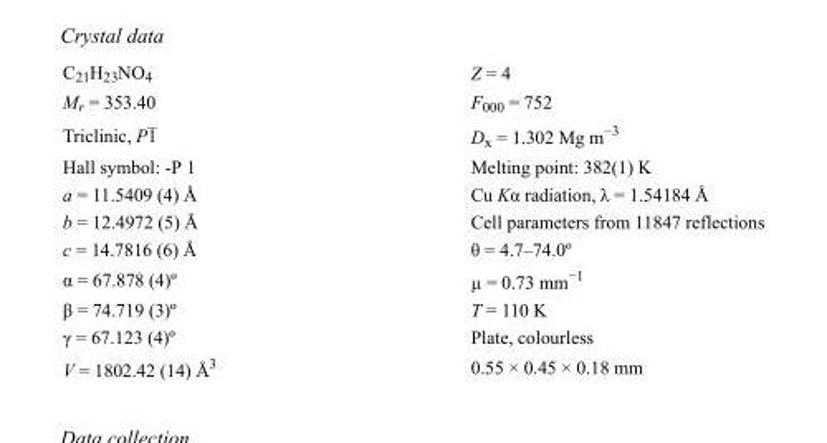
<table><tbody><tr><td>C<sub>21</sub>H<sub>23</sub>NO<sub>4</sub></td><td>Z = 4</td></tr><tr><td>M<sub>r</sub> = 353.40</td><td>F000 = 752</td></tr><tr><td>Triclinic, P1</td><td>D<sub>x</sub> = 1.302 Mg m<sup>−3</sup></td></tr><tr><td>Hall symbol: -P 1</td><td>Melting point: 382(1) K</td></tr><tr><td>a = 11.5409 (4) Å</td><td>Cu Kα radiation, λ = 1.54184 Å</td></tr><tr><td>b = 12.4972 (5) Å</td><td>Cell parameters from 11847 reflections</td></tr><tr><td>c = 14.7816 (6) Å</td><td>θ = 4.7–74.0º</td></tr><tr><td>α = 67.878 (4)º</td><td>µ = 0.73 mm<sup>−1</sup></td></tr><tr><td>β = 74.719 (3)º</td><td>T = 110 K</td></tr><tr><td>γ = 67.123 (4)º</td><td>Plate, colourless</td></tr><tr><td>V = 1802.42 (14) Å<sup>3</sup></td><td>0.55 × 0.45 × 0.18 mm</td></tr></tbody></table>